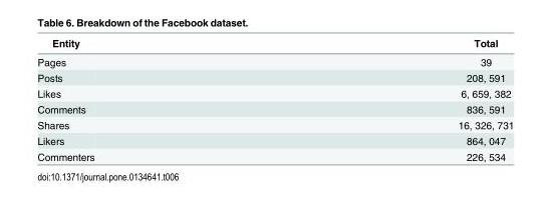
<table><thead><tr><td>Entity</td><td>Total</td></tr></thead><tbody><tr><td>Pages</td><td>39</td></tr><tr><td>Posts</td><td>208, 591</td></tr><tr><td>Likes</td><td>6, 659, 382</td></tr><tr><td>Comments</td><td>836, 591</td></tr><tr><td>Shares</td><td>16, 326, 731</td></tr><tr><td>Likers</td><td>864, 047</td></tr><tr><td>Commenters</td><td>226, 534</td></tr></tbody></table>